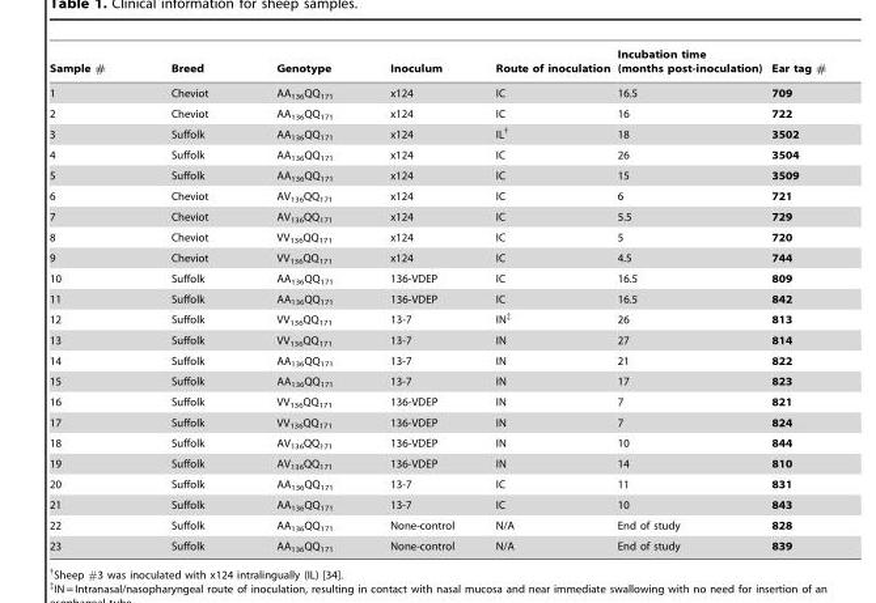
<table><thead><tr><td>Sample #</td><td>Breed</td><td>Genotype</td><td>Inoculum</td><td>Route of inoculation</td><td>Incubation time (months post-inoculation)</td><td>Ear tag #</td></tr></thead><tbody><tr><td>1</td><td>Cheviot</td><td>AA<sub>136</sub>QQ<sub>171</sub></td><td>x124</td><td>IC</td><td>16.5</td><td>709</td></tr><tr><td>2</td><td>Cheviot</td><td>AA<sub>136</sub>QQ<sub>171</sub></td><td>x124</td><td>IC</td><td>16</td><td>722</td></tr><tr><td>3</td><td>Suffolk</td><td>AA<sub>136</sub>QQ<sub>171</sub></td><td>x124</td><td>IL†</td><td>18</td><td>3502</td></tr><tr><td>4</td><td>Suffolk</td><td>AA<sub>136</sub>QQ<sub>171</sub></td><td>x124</td><td>IC</td><td>26</td><td>3504</td></tr><tr><td>5</td><td>Suffolk</td><td>AA<sub>136</sub>QQ<sub>171</sub></td><td>x124</td><td>IC</td><td>15</td><td>3509</td></tr><tr><td>6</td><td>Cheviot</td><td>AV<sub>136</sub>QQ<sub>171</sub></td><td>x124</td><td>IC</td><td>6</td><td>721</td></tr><tr><td>7</td><td>Cheviot</td><td>AV<sub>136</sub>QQ<sub>171</sub></td><td>x124</td><td>IC</td><td>5.5</td><td>729</td></tr><tr><td>8</td><td>Cheviot</td><td>VV<sub>136</sub>QQ<sub>171</sub></td><td>x124</td><td>IC</td><td>5</td><td>720</td></tr><tr><td>9</td><td>Cheviot</td><td>VV<sub>136</sub>QQ<sub>171</sub></td><td>x124</td><td>IC</td><td>4.5</td><td>744</td></tr><tr><td>10</td><td>Suffolk</td><td>AA<sub>136</sub>QQ<sub>171</sub></td><td>136-VDEP</td><td>IC</td><td>16.5</td><td>809</td></tr><tr><td>11</td><td>Suffolk</td><td>AA<sub>136</sub>QQ<sub>171</sub></td><td>136-VDEP</td><td>IC</td><td>16.5</td><td>842</td></tr><tr><td>12</td><td>Suffolk</td><td>VV<sub>136</sub>QQ<sub>171</sub></td><td>13-7</td><td>IN‡</td><td>26</td><td>813</td></tr><tr><td>13</td><td>Suffolk</td><td>VV<sub>136</sub>QQ<sub>171</sub></td><td>13-7</td><td>IN</td><td>27</td><td>814</td></tr><tr><td>14</td><td>Suffolk</td><td>AA<sub>136</sub>QQ<sub>171</sub></td><td>13-7</td><td>IN</td><td>21</td><td>822</td></tr><tr><td>15</td><td>Suffolk</td><td>AA<sub>136</sub>QQ<sub>171</sub></td><td>13-7</td><td>IN</td><td>17</td><td>823</td></tr><tr><td>16</td><td>Suffolk</td><td>VV<sub>136</sub>QQ<sub>171</sub></td><td>136-VDEP</td><td>IN</td><td>7</td><td>821</td></tr><tr><td>17</td><td>Suffolk</td><td>VV<sub>136</sub>QQ<sub>171</sub></td><td>136-VDEP</td><td>IN</td><td>7</td><td>824</td></tr><tr><td>18</td><td>Suffolk</td><td>AV<sub>136</sub>QQ<sub>171</sub></td><td>136-VDEP</td><td>IN</td><td>10</td><td>844</td></tr><tr><td>19</td><td>Suffolk</td><td>AV<sub>136</sub>QQ<sub>171</sub></td><td>136-VDEP</td><td>IN</td><td>14</td><td>810</td></tr><tr><td>20</td><td>Suffolk</td><td>AA<sub>136</sub>QQ<sub>171</sub></td><td>13-7</td><td>IC</td><td>11</td><td>831</td></tr><tr><td>21</td><td>Suffolk</td><td>AA<sub>136</sub>QQ<sub>171</sub></td><td>13-7</td><td>IC</td><td>10</td><td>843</td></tr><tr><td>22</td><td>Suffolk</td><td>AA<sub>136</sub>QQ<sub>171</sub></td><td>None-control</td><td>N/A</td><td>End of study</td><td>828</td></tr><tr><td>23</td><td>Suffolk</td><td>AA<sub>136</sub>QQ<sub>171</sub></td><td>None-control</td><td>N/A</td><td>End of study</td><td>839</td></tr></tbody></table>